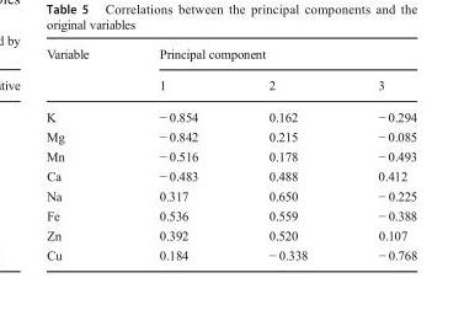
<table><thead><tr><td rowspan="2">Variable</td><td colspan="3">Principal component</td></tr><tr><td>1</td><td>2</td><td>3</td></tr></thead><tbody><tr><td>K</td><td>− 0.854</td><td>0.162</td><td>− 0.294</td></tr><tr><td>Mg</td><td>− 0.842</td><td>0.215</td><td>− 0.085</td></tr><tr><td>Mn</td><td>− 0.516</td><td>0.178</td><td>− 0.493</td></tr><tr><td>Ca</td><td>− 0.483</td><td>0.488</td><td>0.412</td></tr><tr><td>Na</td><td>0.317</td><td>0.650</td><td>− 0.225</td></tr><tr><td>Fe</td><td>0.536</td><td>0.559</td><td>− 0.388</td></tr><tr><td>Zn</td><td>0.392</td><td>0.520</td><td>0.107</td></tr><tr><td>Cu</td><td>0.184</td><td>− 0.338</td><td>− 0.768</td></tr></tbody></table>